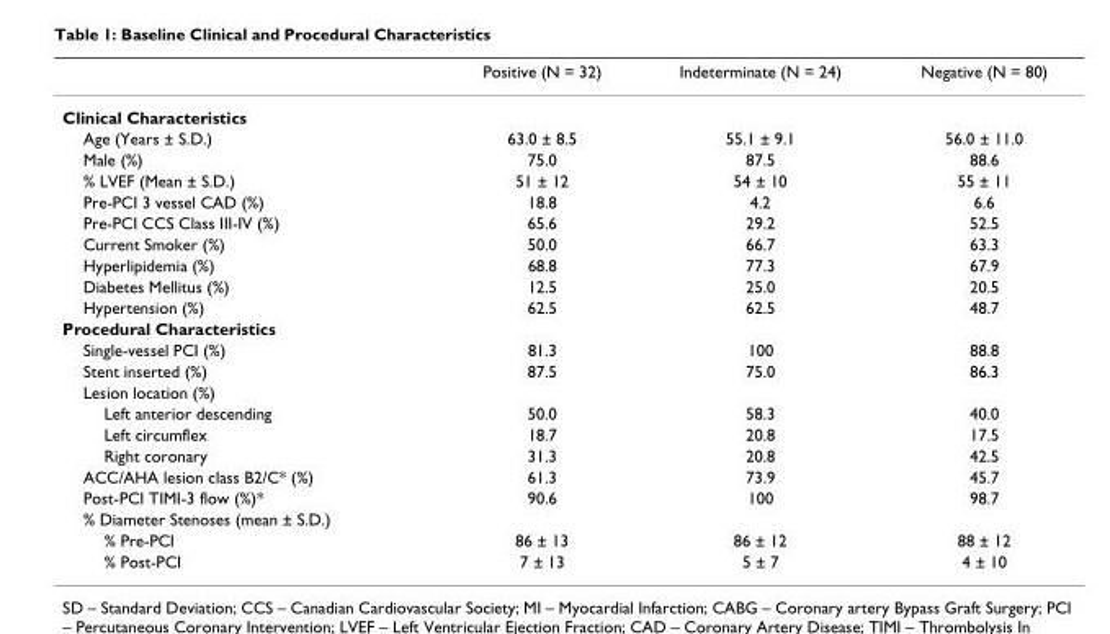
<table><thead><tr><td></td><td>Positive (N = 32)</td><td>Indeterminate (N = 24)</td><td>Negative (N = 80)</td></tr></thead><tbody><tr><td colspan="4">Clinical Characteristics</td></tr><tr><td>Age (Years ± S.D.)</td><td>63.0 ± 8.5</td><td>55.1 ± 9.1</td><td>56.0 ± 11.0</td></tr><tr><td>Male (%)</td><td>75.0</td><td>87.5</td><td>88.6</td></tr><tr><td>% LVEF (Mean ± S.D.)</td><td>51 ± 12</td><td>54 ± 10</td><td>55 ± 11</td></tr><tr><td>Pre-PCI 3 vessel CAD (%)</td><td>18.8</td><td>4.2</td><td>6.6</td></tr><tr><td>Pre-PCI CCS Class III-IV (%)</td><td>65.6</td><td>29.2</td><td>52.5</td></tr><tr><td>Current Smoker (%)</td><td>50.0</td><td>66.7</td><td>63.3</td></tr><tr><td>Hyperlipidemia (%)</td><td>68.8</td><td>77.3</td><td>67.9</td></tr><tr><td>Diabetes Mellitus (%)</td><td>12.5</td><td>25.0</td><td>20.5</td></tr><tr><td>Hypertension (%)</td><td>62.5</td><td>62.5</td><td>48.7</td></tr><tr><td colspan="4">Procedural Characteristics</td></tr><tr><td>Single-vessel PCI (%)</td><td>81.3</td><td>100</td><td>88.8</td></tr><tr><td>Stent inserted (%)</td><td>87.5</td><td>75.0</td><td>86.3</td></tr><tr><td colspan="4">Lesion location (%)</td></tr><tr><td>Left anterior descending</td><td>50.0</td><td>58.3</td><td>40.0</td></tr><tr><td>Left circumflex</td><td>18.7</td><td>20.8</td><td>17.5</td></tr><tr><td>Right coronary</td><td>31.3</td><td>20.8</td><td>42.5</td></tr><tr><td>ACC/AHA lesion class B2/C* (%)</td><td>61.3</td><td>73.9</td><td>45.7</td></tr><tr><td>Post-PCI TIMI-3 flow (%)*</td><td>90.6</td><td>100</td><td>98.7</td></tr><tr><td colspan="4">% Diameter Stenoses (mean ± S.D.)</td></tr><tr><td>% Pre-PCI</td><td>86 ± 13</td><td>86 ± 12</td><td>88 ± 12</td></tr><tr><td>% Post-PCI</td><td>7 ± 13</td><td>5 ± 7</td><td>4 ± 10</td></tr></tbody></table>